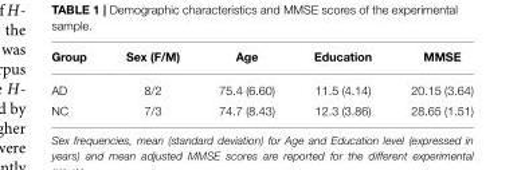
<table><thead><tr><td>Group</td><td>Sex (F/M)</td><td>Age</td><td>Education</td><td>MMSE</td></tr></thead><tbody><tr><td>AD</td><td>8/2</td><td>75.4 (6.60)</td><td>11.5 (4.14)</td><td>20.15 (3.64)</td></tr><tr><td>NC</td><td>7/3</td><td>74.7 (8.43)</td><td>12.3 (3.86)</td><td>28.65 (1.51)</td></tr></tbody></table>